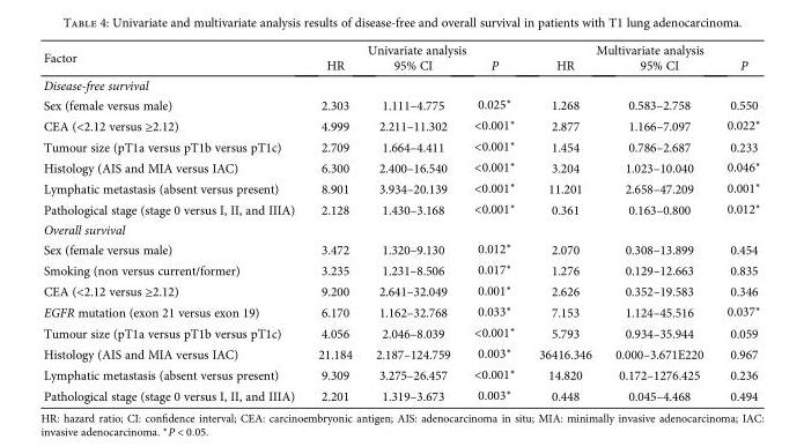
<table><thead><tr><td rowspan="2">Factor</td><td colspan="3">Univariate analysis</td><td colspan="3">Multivariate analysis</td></tr><tr><td>HR</td><td>95% CI</td><td>P</td><td>HR</td><td>95% CI</td><td>P</td></tr></thead><tbody><tr><td colspan="7">Disease-free survival</td></tr><tr><td>Sex (female versus male)</td><td>2.303</td><td>1.111–4.775</td><td>0.025∗</td><td>1.268</td><td>0.583–2.758</td><td>0.550</td></tr><tr><td>CEA (&lt;2.12 versus ≥2.12)</td><td>4.999</td><td>2.211–11.302</td><td>&lt;0.001∗</td><td>2.877</td><td>1.166–7.097</td><td>0.022∗</td></tr><tr><td>Tumour size (pT1a versus pT1b versus pT1c)</td><td>2.709</td><td>1.664–4.411</td><td>&lt;0.001∗</td><td>1.454</td><td>0.786–2.687</td><td>0.233</td></tr><tr><td>Histology (AIS and MIA versus IAC)</td><td>6.300</td><td>2.400–16.540</td><td>&lt;0.001∗</td><td>3.204</td><td>1.023–10.040</td><td>0.046∗</td></tr><tr><td>Lymphatic metastasis (absent versus present)</td><td>8.901</td><td>3.934–20.139</td><td>&lt;0.001∗</td><td>11.201</td><td>2.658–47.209</td><td>0.001∗</td></tr><tr><td>Pathological stage (stage 0 versus I, II, and IIIA)</td><td>2.128</td><td>1.430–3.168</td><td>&lt;0.001∗</td><td>0.361</td><td>0.163–0.800</td><td>0.012∗</td></tr><tr><td colspan="7">Overall survival</td></tr><tr><td>Sex (female versus male)</td><td>3.472</td><td>1.320–9.130</td><td>0.012∗</td><td>2.070</td><td>0.308–13.899</td><td>0.454</td></tr><tr><td>Smoking (non versus current/former)</td><td>3.235</td><td>1.231–8.506</td><td>0.017∗</td><td>1.276</td><td>0.129–12.663</td><td>0.835</td></tr><tr><td>CEA (&lt;2.12 versus ≥2.12)</td><td>9.200</td><td>2.641–32.049</td><td>0.001∗</td><td>2.626</td><td>0.352–19.583</td><td>0.346</td></tr><tr><td>EGFR mutation (exon 21 versus exon 19)</td><td>6.170</td><td>1.162–32.768</td><td>0.033∗</td><td>7.153</td><td>1.124–45.516</td><td>0.037∗</td></tr><tr><td>Tumour size (pT1a versus pT1b versus pT1c)</td><td>4.056</td><td>2.046–8.039</td><td>&lt;0.001∗</td><td>5.793</td><td>0.934–35.944</td><td>0.059</td></tr><tr><td>Histology (AIS and MIA versus IAC)</td><td>21.184</td><td>2.187–124.759</td><td>0.003∗</td><td>36416.346</td><td>0.000–3.671E220</td><td>0.967</td></tr><tr><td>Lymphatic metastasis (absent versus present)</td><td>9.309</td><td>3.275–26.457</td><td>&lt;0.001∗</td><td>14.820</td><td>0.172–1276.425</td><td>0.236</td></tr><tr><td>Pathological stage (stage 0 versus I, II, and IIIA)</td><td>2.201</td><td>1.319–3.673</td><td>0.003∗</td><td>0.448</td><td>0.045–4.468</td><td>0.494</td></tr></tbody></table>